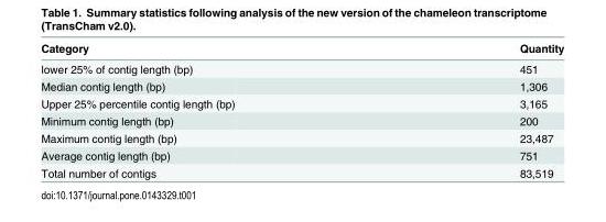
<table><thead><tr><td>Category</td><td>Quantity</td></tr></thead><tbody><tr><td>lower 25% of contig length (bp)</td><td>451</td></tr><tr><td>Median contig length (bp)</td><td>1,306</td></tr><tr><td>Upper 25% percentile contig length (bp)</td><td>3,165</td></tr><tr><td>Minimum contig length (bp)</td><td>200</td></tr><tr><td>Maximum contig length (bp)</td><td>23,487</td></tr><tr><td>Average contig length (bp)</td><td>751</td></tr><tr><td>Total number of contigs</td><td>83,519</td></tr></tbody></table>